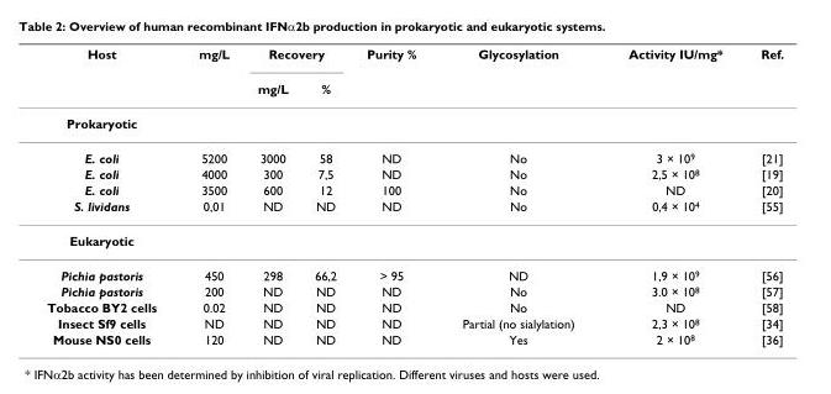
<table><thead><tr><td rowspan="2">Host</td><td rowspan="2">mg/L</td><td colspan="2">Recovery</td><td rowspan="2">Purity %</td><td rowspan="2">Glycosylation</td><td rowspan="2">Activity IU/mg*</td><td rowspan="2">Ref.</td></tr><tr><td>mg/L</td><td>%</td></tr></thead><tbody><tr><td colspan="8">Prokaryotic</td></tr><tr><td>E. coli</td><td>5200</td><td>3000</td><td>58</td><td>ND</td><td>No</td><td>3 × 10<sup>9</sup></td><td>[21]</td></tr><tr><td>E. coli</td><td>4000</td><td>300</td><td>7,5</td><td>ND</td><td>No</td><td>2,5 × 10<sup>8</sup></td><td>[19]</td></tr><tr><td>E. coli</td><td>3500</td><td>600</td><td>12</td><td>100</td><td>No</td><td>ND</td><td>[20]</td></tr><tr><td>S. lividans</td><td>0,01</td><td>ND</td><td>ND</td><td>ND</td><td>No</td><td>0,4 × 10<sup>4</sup></td><td>[55]</td></tr><tr><td colspan="8">Eukaryotic</td></tr><tr><td>Pichia pastoris</td><td>450</td><td>298</td><td>66,2</td><td>&gt; 95</td><td>ND</td><td>1,9 × 10<sup>9</sup></td><td>[56]</td></tr><tr><td>Pichia pastoris</td><td>200</td><td>ND</td><td>ND</td><td>ND</td><td>No</td><td>3.0 × 10<sup>8</sup></td><td>[57]</td></tr><tr><td>Tobacco BY2 cells</td><td>0.02</td><td>ND</td><td>ND</td><td>ND</td><td>No</td><td>ND</td><td>[58]</td></tr><tr><td>Insect Sf9 cells</td><td>ND</td><td>ND</td><td>ND</td><td>ND</td><td>Partial (no sialylation)</td><td>2,3 × 10<sup>8</sup></td><td>[34]</td></tr><tr><td>Mouse NS0 cells</td><td>120</td><td>ND</td><td>ND</td><td>ND</td><td>Yes</td><td>2 × 10<sup>8</sup></td><td>[36]</td></tr></tbody></table>